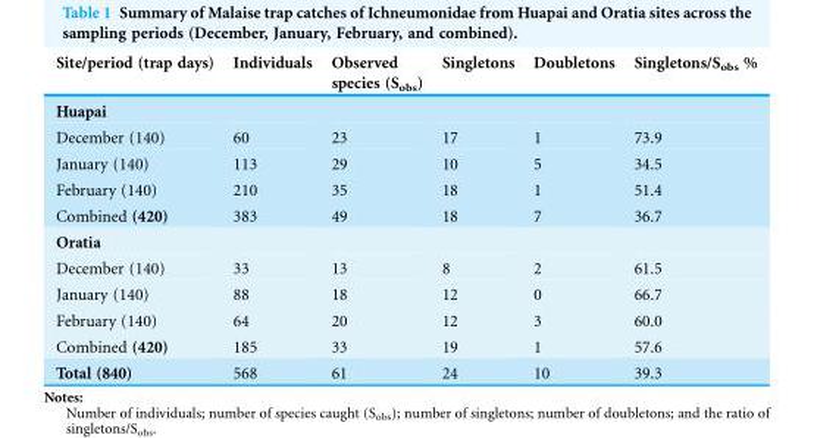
<table><thead><tr><td>Site/period (trap days)</td><td>Individuals</td><td>Observed species (S<sub>obs</sub>)</td><td>Singletons</td><td>Doubletons</td><td>Singletons/S<sub>obs</sub> %</td></tr></thead><tbody><tr><td colspan="6">Huapai</td></tr><tr><td>December (140)</td><td>60</td><td>23</td><td>17</td><td>1</td><td>73.9</td></tr><tr><td>January (140)</td><td>113</td><td>29</td><td>10</td><td>5</td><td>34.5</td></tr><tr><td>February (140)</td><td>210</td><td>35</td><td>18</td><td>1</td><td>51.4</td></tr><tr><td>Combined (420)</td><td>383</td><td>49</td><td>18</td><td>7</td><td>36.7</td></tr><tr><td colspan="6">Oratia</td></tr><tr><td>December (140)</td><td>33</td><td>13</td><td>8</td><td>2</td><td>61.5</td></tr><tr><td>January (140)</td><td>88</td><td>18</td><td>12</td><td>0</td><td>66.7</td></tr><tr><td>February (140)</td><td>64</td><td>20</td><td>12</td><td>3</td><td>60.0</td></tr><tr><td>Combined (420)</td><td>185</td><td>33</td><td>19</td><td>1</td><td>57.6</td></tr><tr><td>Total (840)</td><td>568</td><td>61</td><td>24</td><td>10</td><td>39.3</td></tr></tbody></table>